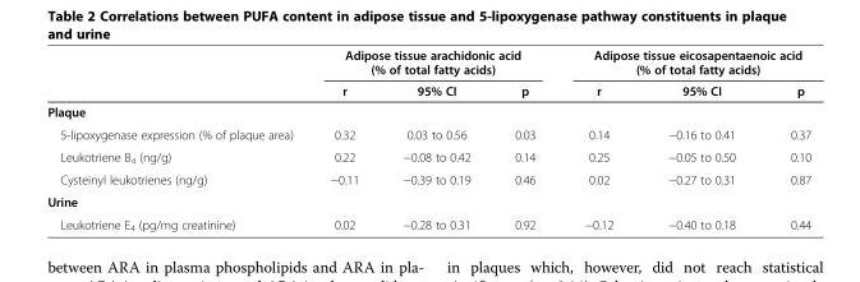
<table><thead><tr><td rowspan="2"></td><td colspan="3">Adipose tissue arachidonic acid (% of total fatty acids)</td><td colspan="3">Adipose tissue eicosapentaenoic acid (% of total fatty acids)</td></tr><tr><td>r</td><td>95% CI</td><td>p</td><td>r</td><td>95% CI</td><td>p</td></tr></thead><tbody><tr><td colspan="7">Plaque</td></tr><tr><td>5-lipoxygenase expression (% of plaque area)</td><td>0.32</td><td>0.03 to 0.56</td><td>0.03</td><td>0.14</td><td>−0.16 to 0.41</td><td>0.37</td></tr><tr><td>Leukotriene B<sub>4</sub> (ng/g)</td><td>0.22</td><td>−0.08 to 0.42</td><td>0.14</td><td>0.25</td><td>−0.05 to 0.50</td><td>0.10</td></tr><tr><td>Cysteinyl leukotrienes (ng/g)</td><td>−0.11</td><td>−0.39 to 0.19</td><td>0.46</td><td>0.02</td><td>−0.27 to 0.31</td><td>0.87</td></tr><tr><td colspan="7">Urine</td></tr><tr><td>Leukotriene E<sub>4</sub> (pg/mg creatinine)</td><td>0.02</td><td>−0.28 to 0.31</td><td>0.92</td><td>−0.12</td><td>−0.40 to 0.18</td><td>0.44</td></tr></tbody></table>